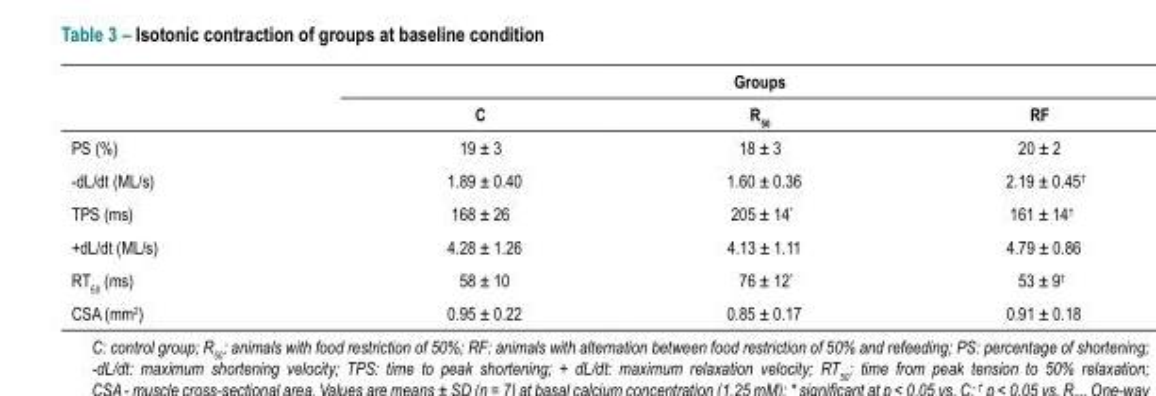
<table><thead><tr><td rowspan="2"></td><td colspan="3">Groups</td></tr><tr><td>C</td><td>R<sub>50</sub></td><td>RF</td></tr></thead><tbody><tr><td>PS (%)</td><td>19 ± 3</td><td>18 ± 3</td><td>20 ± 2</td></tr><tr><td>-dL/dt (ML/s)</td><td>1.89 ± 0.40</td><td>1.60 ± 0.36</td><td>2.19 ± 0.45<sup>†</sup></td></tr><tr><td>TPS (ms)</td><td>168 ± 26</td><td>205 ± 14*</td><td>161 ± 14<sup>†</sup></td></tr><tr><td>+dL/dt (ML/s)</td><td>4.28 ± 1.26</td><td>4.13 ± 1.11</td><td>4.79 ± 0.86</td></tr><tr><td>RT<sub>50</sub> (ms)</td><td>58 ± 10</td><td>76 ± 12*</td><td>53 ± 9<sup>†</sup></td></tr><tr><td>CSA (mm<sup>2</sup>)</td><td>0.95 ± 0.22</td><td>0.85 ± 0.17</td><td>0.91 ± 0.18</td></tr></tbody></table>